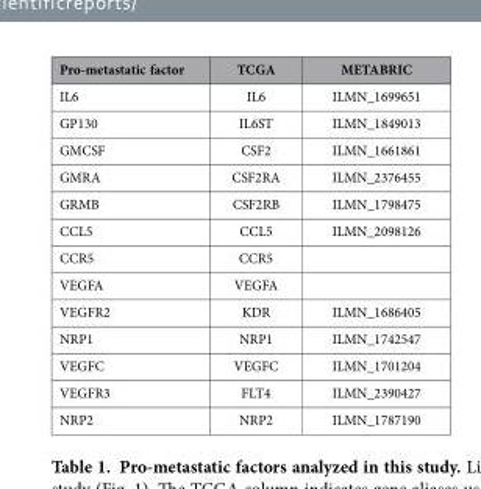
<table><thead><tr><td>Pro-metastatic factor</td><td>TCGA</td><td>METABRIC</td></tr></thead><tbody><tr><td>IL6</td><td>IL6</td><td>ILMN_1699651</td></tr><tr><td>GP130</td><td>IL6ST</td><td>ILMN_1849013</td></tr><tr><td>GMCSF</td><td>CSF2</td><td>ILMN_1661861</td></tr><tr><td>GMRA</td><td>CSF2RA</td><td>ILMN_2376455</td></tr><tr><td>GRMB</td><td>CSF2RB</td><td>ILMN_1798475</td></tr><tr><td>CCL5</td><td>CCL5</td><td>ILMN_2098126</td></tr><tr><td>CCR5</td><td>CCR5</td><td></td></tr><tr><td>VEGFA</td><td>VEGFA</td><td></td></tr><tr><td>VEGFR2</td><td>KDR</td><td>ILMN_1686405</td></tr><tr><td>NRP1</td><td>NRP1</td><td>ILMN_1742547</td></tr><tr><td>VEGFC</td><td>VEGFC</td><td>ILMN_1701204</td></tr><tr><td>VEGFR3</td><td>FLT4</td><td>ILMN_2390427</td></tr><tr><td>NRP2</td><td>NRP2</td><td>ILMN_1787190</td></tr></tbody></table>